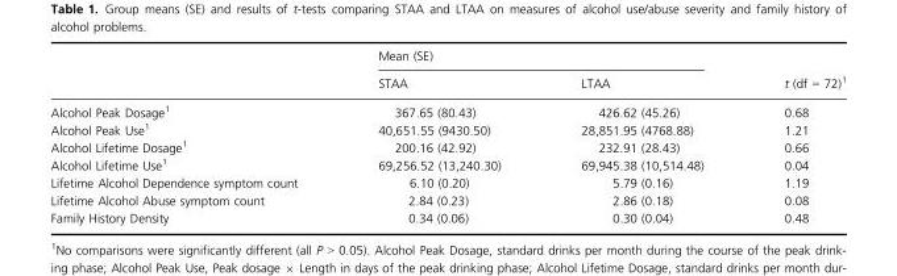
<table><thead><tr><td rowspan="2"></td><td colspan="2">Mean (SE)</td><td rowspan="2">t (df = 72)<sup>1</sup></td></tr><tr><td>STAA</td><td>LTAA</td></tr></thead><tbody><tr><td>Alcohol Peak Dosage<sup>1</sup></td><td>367.65 (80.43)</td><td>426.62 (45.26)</td><td>0.68</td></tr><tr><td>Alcohol Peak Use<sup>1</sup></td><td>40,651.55 (9430.50)</td><td>28,851.95 (4768.88)</td><td>1.21</td></tr><tr><td>Alcohol Lifetime Dosage<sup>1</sup></td><td>200.16 (42.92)</td><td>232.91 (28.43)</td><td>0.66</td></tr><tr><td>Alcohol Lifetime Use<sup>1</sup></td><td>69,256.52 (13,240.30)</td><td>69,945.38 (10,514.48)</td><td>0.04</td></tr><tr><td>Lifetime Alcohol Dependence symptom count</td><td>6.10 (0.20)</td><td>5.79 (0.16)</td><td>1.19</td></tr><tr><td>Lifetime Alcohol Abuse symptom count</td><td>2.84 (0.23)</td><td>2.86 (0.18)</td><td>0.08</td></tr><tr><td>Family History Density</td><td>0.34 (0.06)</td><td>0.30 (0.04)</td><td>0.48</td></tr></tbody></table>